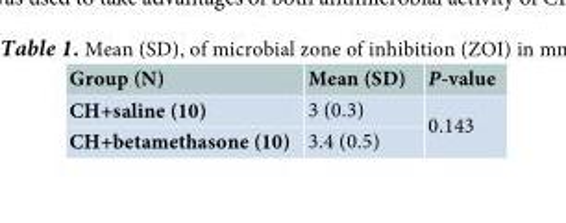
<table><thead><tr><td>Group (N)</td><td>Mean (SD)</td><td>P-value</td></tr></thead><tbody><tr><td>CH+saline (10)</td><td>3 (0.3)</td><td rowspan="2">0.143</td></tr><tr><td>CH+betamethasone (10)</td><td>3.4 (0.5)</td></tr></tbody></table>